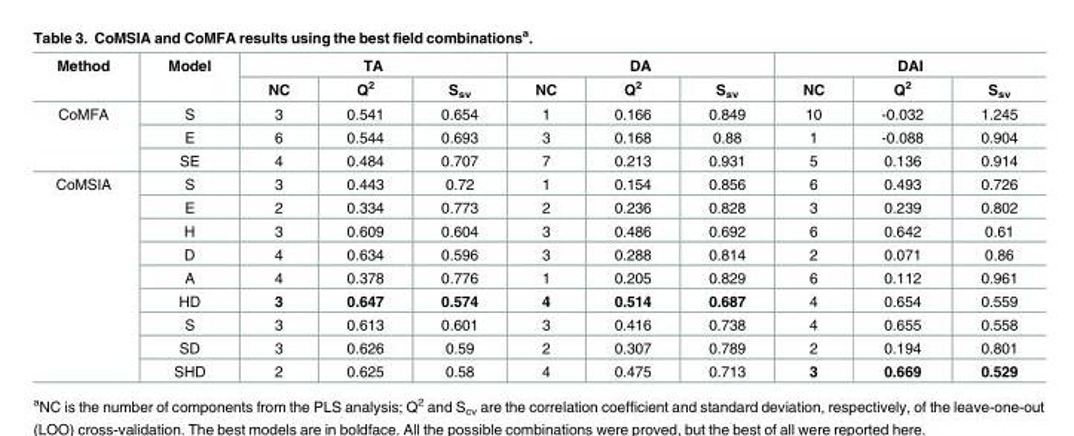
<table><thead><tr><td rowspan="2">Method</td><td rowspan="2">Model</td><td colspan="3">TA</td><td colspan="3">DA</td><td colspan="3">DAI</td></tr><tr><td>NC</td><td>Q<sup>2</sup></td><td>S<sub>sv</sub></td><td>NC</td><td>Q<sup>2</sup></td><td>S<sub>sv</sub></td><td>NC</td><td>Q<sup>2</sup></td><td>S<sub>sv</sub></td></tr></thead><tbody><tr><td rowspan="3">CoMFA</td><td>S</td><td>3</td><td>0.541</td><td>0.654</td><td>1</td><td>0.166</td><td>0.849</td><td>10</td><td>-0.032</td><td>1.245</td></tr><tr><td>E</td><td>6</td><td>0.544</td><td>0.693</td><td>3</td><td>0.168</td><td>0.88</td><td>1</td><td>-0.088</td><td>0.904</td></tr><tr><td>SE</td><td>4</td><td>0.484</td><td>0.707</td><td>7</td><td>0.213</td><td>0.931</td><td>5</td><td>0.136</td><td>0.914</td></tr><tr><td rowspan="9">CoMSIA</td><td>S</td><td>3</td><td>0.443</td><td>0.72</td><td>1</td><td>0.154</td><td>0.856</td><td>6</td><td>0.493</td><td>0.726</td></tr><tr><td>E</td><td>2</td><td>0.334</td><td>0.773</td><td>2</td><td>0.236</td><td>0.828</td><td>3</td><td>0.239</td><td>0.802</td></tr><tr><td>H</td><td>3</td><td>0.609</td><td>0.604</td><td>3</td><td>0.486</td><td>0.692</td><td>6</td><td>0.642</td><td>0.61</td></tr><tr><td>D</td><td>4</td><td>0.634</td><td>0.596</td><td>3</td><td>0.288</td><td>0.814</td><td>2</td><td>0.071</td><td>0.86</td></tr><tr><td>A</td><td>4</td><td>0.378</td><td>0.776</td><td>1</td><td>0.205</td><td>0.829</td><td>6</td><td>0.112</td><td>0.961</td></tr><tr><td>HD</td><td>3</td><td>0.647</td><td>0.574</td><td>4</td><td>0.514</td><td>0.687</td><td>4</td><td>0.654</td><td>0.559</td></tr><tr><td>S</td><td>3</td><td>0.613</td><td>0.601</td><td>3</td><td>0.416</td><td>0.738</td><td>4</td><td>0.655</td><td>0.558</td></tr><tr><td>SD</td><td>3</td><td>0.626</td><td>0.59</td><td>2</td><td>0.307</td><td>0.789</td><td>2</td><td>0.194</td><td>0.801</td></tr><tr><td>SHD</td><td>2</td><td>0.625</td><td>0.58</td><td>4</td><td>0.475</td><td>0.713</td><td>3</td><td>0.669</td><td>0.529</td></tr></tbody></table>